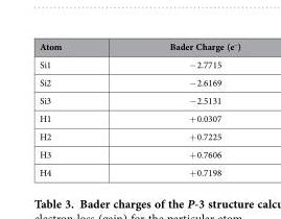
<table><thead><tr><td>Atom</td><td>Bader Charge (e<sup>−</sup>)</td></tr></thead><tbody><tr><td>Si1</td><td>− 2.7715</td></tr><tr><td>Si2</td><td>− 2.6169</td></tr><tr><td>Si3</td><td>− 2.5131</td></tr><tr><td>H1</td><td>+ 0.0307</td></tr><tr><td>H2</td><td>+ 0.7225</td></tr><tr><td>H3</td><td>+ 0.7606</td></tr><tr><td>H4</td><td>+ 0.7198</td></tr></tbody></table>